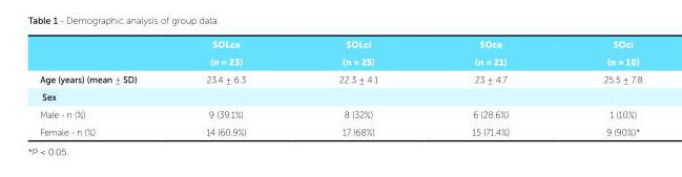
<table><thead><tr><td rowspan="2"></td><td rowspan="2">SOLce (n = 23)</td><td rowspan="2">SOLci (n = 25)</td><td rowspan="2">SOce (n = 21)</td><td rowspan="2">SOci (n = 10)</td></tr><tr></tr></thead><tbody><tr><td>Age (years) (mean ± SD)</td><td>23.4 ± 6.3</td><td>22.3 ± 4.1</td><td>23 ± 4.7</td><td>25.5 ± 7.8</td></tr><tr><td colspan="5">Sex</td></tr><tr><td>Male - n (%)</td><td>9 (39.1%)</td><td>8 (32%)</td><td>6 (28.6%)</td><td>1 (10%)</td></tr><tr><td>Female - n (%)</td><td>14 (60.9%)</td><td>17 (68%)</td><td>15 (71.4%)</td><td>9 (90%)*</td></tr></tbody></table>